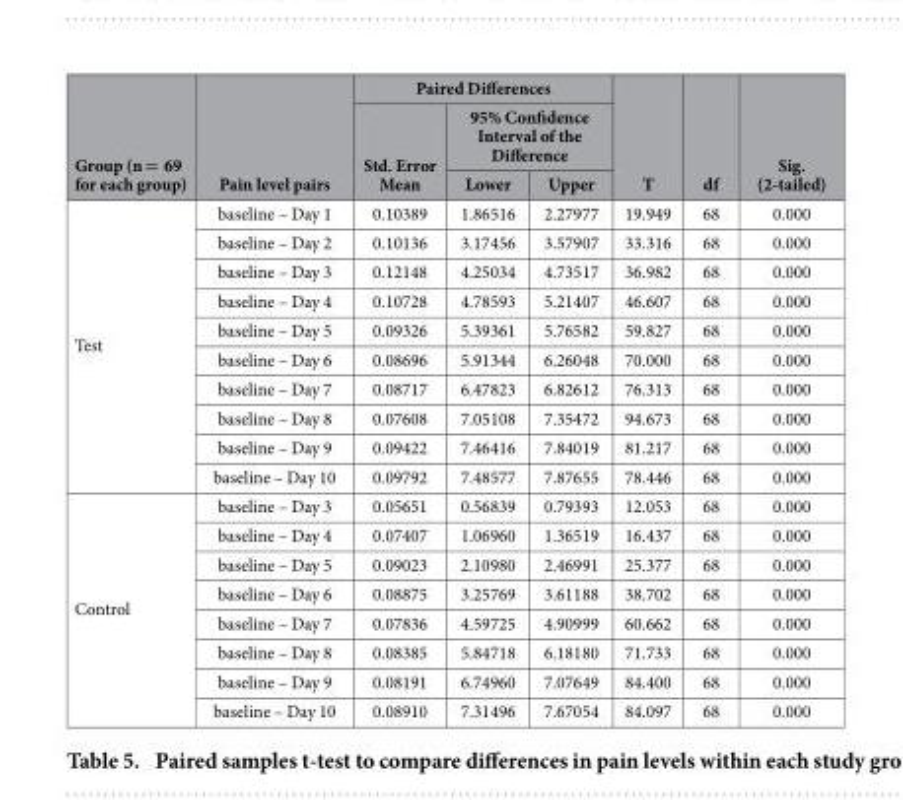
<table><thead><tr><td rowspan="3">Group (n = 69 for each group)</td><td rowspan="3">Pain level pairs</td><td colspan="3">Paired Differences</td><td rowspan="3">T</td><td rowspan="3">df</td><td rowspan="3">Sig. (2-tailed)</td></tr><tr><td rowspan="2">Std. Error Mean</td><td colspan="2">95% Confidence Interval of the Difference</td></tr><tr><td>Lower</td><td>Upper</td></tr></thead><tbody><tr><td rowspan="10">Test</td><td>baseline – Day 1</td><td>0.10389</td><td>1.86516</td><td>2.27977</td><td>19.949</td><td>68</td><td>0.000</td></tr><tr><td>baseline – Day 2</td><td>0.10136</td><td>3.17456</td><td>3.57907</td><td>33.316</td><td>68</td><td>0.000</td></tr><tr><td>baseline – Day 3</td><td>0.12148</td><td>4.25034</td><td>4.73517</td><td>36.982</td><td>68</td><td>0.000</td></tr><tr><td>baseline – Day 4</td><td>0.10728</td><td>4.78593</td><td>5.21407</td><td>46.607</td><td>68</td><td>0.000</td></tr><tr><td>baseline – Day 5</td><td>0.09326</td><td>5.39361</td><td>5.76582</td><td>59.827</td><td>68</td><td>0.000</td></tr><tr><td>baseline – Day 6</td><td>0.08696</td><td>5.91344</td><td>6.26048</td><td>70.000</td><td>68</td><td>0.000</td></tr><tr><td>baseline – Day 7</td><td>0.08717</td><td>6.47823</td><td>6.82612</td><td>76.313</td><td>68</td><td>0.000</td></tr><tr><td>baseline – Day 8</td><td>0.07608</td><td>7.05108</td><td>7.35472</td><td>94.673</td><td>68</td><td>0.000</td></tr><tr><td>baseline – Day 9</td><td>0.09422</td><td>7.46416</td><td>7.84019</td><td>81.217</td><td>68</td><td>0.000</td></tr><tr><td>baseline – Day 10</td><td>0.09792</td><td>7.48577</td><td>7.87655</td><td>78.446</td><td>68</td><td>0.000</td></tr><tr><td rowspan="8">Control</td><td>baseline – Day 3</td><td>0.05651</td><td>0.56839</td><td>0.79393</td><td>12.053</td><td>68</td><td>0.000</td></tr><tr><td>baseline – Day 4</td><td>0.07407</td><td>1.06960</td><td>1.36519</td><td>16.437</td><td>68</td><td>0.000</td></tr><tr><td>baseline – Day 5</td><td>0.09023</td><td>2.10980</td><td>2.46991</td><td>25.377</td><td>68</td><td>0.000</td></tr><tr><td>baseline – Day 6</td><td>0.08875</td><td>3.25769</td><td>3.61188</td><td>38.702</td><td>68</td><td>0.000</td></tr><tr><td>baseline – Day 7</td><td>0.07836</td><td>4.59725</td><td>4.90999</td><td>60.662</td><td>68</td><td>0.000</td></tr><tr><td>baseline – Day 8</td><td>0.08385</td><td>5.84718</td><td>6.18180</td><td>71.733</td><td>68</td><td>0.000</td></tr><tr><td>baseline – Day 9</td><td>0.08191</td><td>6.74960</td><td>7.07649</td><td>84.400</td><td>68</td><td>0.000</td></tr><tr><td>baseline – Day 10</td><td>0.08910</td><td>7.31496</td><td>7.67054</td><td>84.097</td><td>68</td><td>0.000</td></tr></tbody></table>